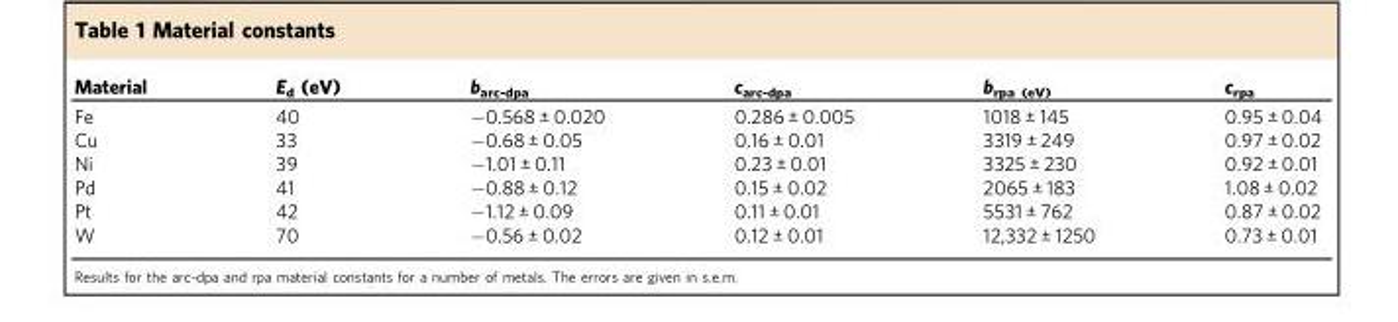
<table><thead><tr><td>Material</td><td>E<sub>d</sub> (eV)</td><td>b<sub>arc-dpa</sub></td><td>c<sub>arc-dpa</sub></td><td>b<sub>rpa (eV)</sub></td><td>c<sub>rpa</sub></td></tr></thead><tbody><tr><td>Fe</td><td>40</td><td>−0.568 ± 0.020</td><td>0.286 ± 0.005</td><td>1018 ± 145</td><td>0.95 ± 0.04</td></tr><tr><td>Cu</td><td>33</td><td>−0.68 ± 0.05</td><td>0.16 ± 0.01</td><td>3319 ± 249</td><td>0.97 ± 0.02</td></tr><tr><td>Ni</td><td>39</td><td>−1.01 ± 0.11</td><td>0.23 ± 0.01</td><td>3325 ± 230</td><td>0.92 ± 0.01</td></tr><tr><td>Pd</td><td>41</td><td>−0.88 ± 0.12</td><td>0.15 ± 0.02</td><td>2065 ± 183</td><td>1.08 ± 0.02</td></tr><tr><td>Pt</td><td>42</td><td>−1.12 ± 0.09</td><td>0.11 ± 0.01</td><td>5531 ± 762</td><td>0.87 ± 0.02</td></tr><tr><td>W</td><td>70</td><td>−0.56 ± 0.02</td><td>0.12 ± 0.01</td><td>12,332 ± 1250</td><td>0.73 ± 0.01</td></tr></tbody></table>